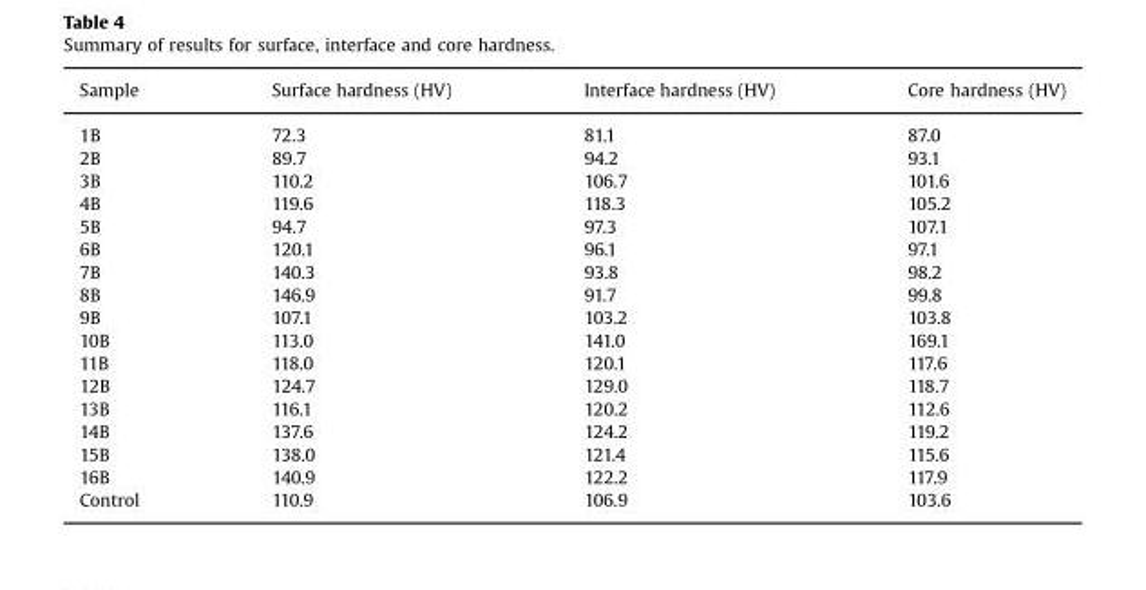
<table><thead><tr><td>Sample</td><td>Surface hardness (HV)</td><td>Interface hardness (HV)</td><td>Core hardness (HV)</td></tr></thead><tbody><tr><td>1B</td><td>72.3</td><td>81.1</td><td>87.0</td></tr><tr><td>2B</td><td>89.7</td><td>94.2</td><td>93.1</td></tr><tr><td>3B</td><td>110.2</td><td>106.7</td><td>101.6</td></tr><tr><td>4B</td><td>119.6</td><td>118.3</td><td>105.2</td></tr><tr><td>5B</td><td>94.7</td><td>97.3</td><td>107.1</td></tr><tr><td>6B</td><td>120.1</td><td>96.1</td><td>97.1</td></tr><tr><td>7B</td><td>140.3</td><td>93.8</td><td>98.2</td></tr><tr><td>8B</td><td>146.9</td><td>91.7</td><td>99.8</td></tr><tr><td>9B</td><td>107.1</td><td>103.2</td><td>103.8</td></tr><tr><td>10B</td><td>113.0</td><td>141.0</td><td>169.1</td></tr><tr><td>11B</td><td>118.0</td><td>120.1</td><td>117.6</td></tr><tr><td>12B</td><td>124.7</td><td>129.0</td><td>118.7</td></tr><tr><td>13B</td><td>116.1</td><td>120.2</td><td>112.6</td></tr><tr><td>14B</td><td>137.6</td><td>124.2</td><td>119.2</td></tr><tr><td>15B</td><td>138.0</td><td>121.4</td><td>115.6</td></tr><tr><td>16B</td><td>140.9</td><td>122.2</td><td>117.9</td></tr><tr><td>Control</td><td>110.9</td><td>106.9</td><td>103.6</td></tr></tbody></table>